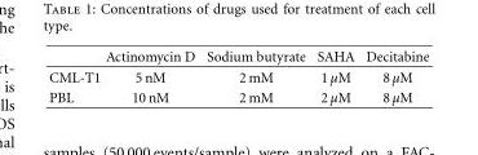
<table><thead><tr><td></td><td>Actinomycin D</td><td>Sodium butyrate</td><td>SAHA</td><td>Decitabine</td></tr></thead><tbody><tr><td>CML-T1</td><td>5 nM</td><td>2 mM</td><td>1 μM</td><td>8 μM</td></tr><tr><td>PBL</td><td>10 nM</td><td>2 mM</td><td>2 μM</td><td>8 μM</td></tr></tbody></table>